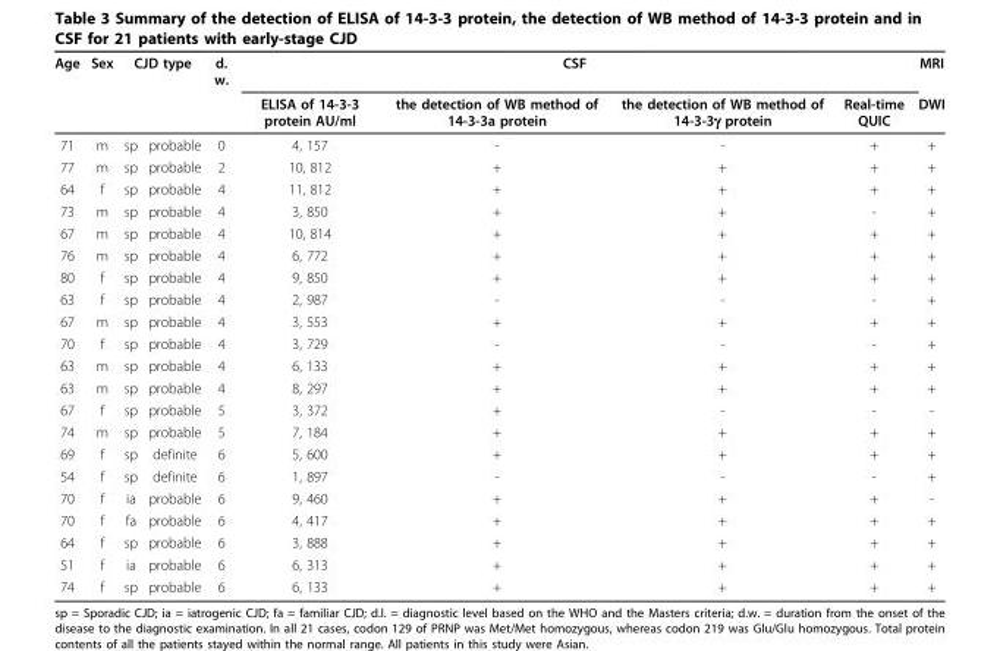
<table><thead><tr><td rowspan="2">Age</td><td rowspan="2">Sex</td><td colspan="2">CJD type</td><td rowspan="2">d. w.</td><td colspan="4">CSF</td><td rowspan="2">MRI DWI</td></tr><tr><td></td><td></td><td>ELISA of 14-3-3 protein AU/ml</td><td>the detection of WB method of 14-3-3a protein</td><td>the detection of WB method of 14-3-3γ protein</td><td>Real-time QUIC</td></tr></thead><tbody><tr><td>71</td><td>m</td><td>sp</td><td>probable</td><td>0</td><td>4, 157</td><td>-</td><td>-</td><td>+</td><td>+</td></tr><tr><td>77</td><td>m</td><td>sp</td><td>probable</td><td>2</td><td>10, 812</td><td>+</td><td>+</td><td>+</td><td>+</td></tr><tr><td>64</td><td>f</td><td>sp</td><td>probable</td><td>4</td><td>11, 812</td><td>+</td><td>+</td><td>+</td><td>+</td></tr><tr><td>73</td><td>m</td><td>sp</td><td>probable</td><td>4</td><td>3, 850</td><td>+</td><td>+</td><td>-</td><td>+</td></tr><tr><td>67</td><td>m</td><td>sp</td><td>probable</td><td>4</td><td>10, 814</td><td>+</td><td>+</td><td>+</td><td>+</td></tr><tr><td>76</td><td>m</td><td>sp</td><td>probable</td><td>4</td><td>6, 772</td><td>+</td><td>+</td><td>+</td><td>+</td></tr><tr><td>80</td><td>f</td><td>sp</td><td>probable</td><td>4</td><td>9, 850</td><td>+</td><td>+</td><td>+</td><td>+</td></tr><tr><td>63</td><td>f</td><td>sp</td><td>probable</td><td>4</td><td>2, 987</td><td>-</td><td>-</td><td>-</td><td>+</td></tr><tr><td>67</td><td>m</td><td>sp</td><td>probable</td><td>4</td><td>3, 553</td><td>+</td><td>+</td><td>+</td><td>+</td></tr><tr><td>70</td><td>f</td><td>sp</td><td>probable</td><td>4</td><td>3, 729</td><td>-</td><td>-</td><td>-</td><td>+</td></tr><tr><td>63</td><td>m</td><td>sp</td><td>probable</td><td>4</td><td>6, 133</td><td>+</td><td>+</td><td>+</td><td>+</td></tr><tr><td>63</td><td>m</td><td>sp</td><td>probable</td><td>4</td><td>8, 297</td><td>+</td><td>+</td><td>+</td><td>+</td></tr><tr><td>67</td><td>f</td><td>sp</td><td>probable</td><td>5</td><td>3, 372</td><td>+</td><td>-</td><td>-</td><td>-</td></tr><tr><td>74</td><td>m</td><td>sp</td><td>probable</td><td>5</td><td>7, 184</td><td>+</td><td>+</td><td>+</td><td>+</td></tr><tr><td>69</td><td>f</td><td>sp</td><td>definite</td><td>6</td><td>5, 600</td><td>+</td><td>+</td><td>+</td><td>+</td></tr><tr><td>54</td><td>f</td><td>sp</td><td>definite</td><td>6</td><td>1, 897</td><td>-</td><td>-</td><td>-</td><td>+</td></tr><tr><td>70</td><td>f</td><td>ia</td><td>probable</td><td>6</td><td>9, 460</td><td>+</td><td>+</td><td>+</td><td>-</td></tr><tr><td>70</td><td>f</td><td>fa</td><td>probable</td><td>6</td><td>4, 417</td><td>+</td><td>+</td><td>+</td><td>+</td></tr><tr><td>64</td><td>f</td><td>sp</td><td>probable</td><td>6</td><td>3, 888</td><td>+</td><td>+</td><td>+</td><td>+</td></tr><tr><td>51</td><td>f</td><td>ia</td><td>probable</td><td>6</td><td>6, 313</td><td>+</td><td>+</td><td>+</td><td>+</td></tr><tr><td>74</td><td>f</td><td>sp</td><td>probable</td><td>6</td><td>6, 133</td><td>+</td><td>+</td><td>+</td><td>+</td></tr></tbody></table>